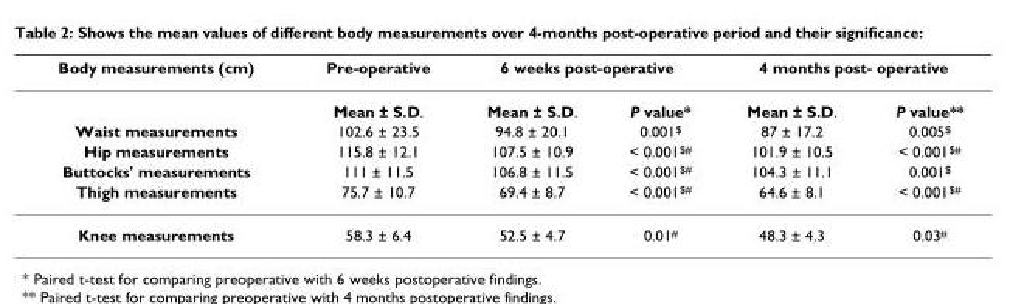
<table><thead><tr><td rowspan="2">Body measurements (cm)</td><td rowspan="2">Pre-operative Mean ± S.D.</td><td colspan="2">6 weeks post-operative</td><td colspan="2">4 months post- operative</td></tr><tr><td>Mean ± S.D.</td><td>P value*</td><td>Mean ± S.D.</td><td>P value**</td></tr></thead><tbody><tr><td>Waist measurements</td><td>102.6 ± 23.5</td><td>94.8 ± 20.1</td><td>0.001<sup>$</sup></td><td>87 ± 17.2</td><td>0.005<sup>$</sup></td></tr><tr><td>Hip measurements</td><td>115.8 ± 12.1</td><td>107.5 ± 10.9</td><td>&lt; 0.001<sup>$#</sup></td><td>101.9 ± 10.5</td><td>&lt; 0.001<sup>$#</sup></td></tr><tr><td>Buttocks&#x27; measurements</td><td>111 ± 11.5</td><td>106.8 ± 11.5</td><td>&lt; 0.001<sup>$#</sup></td><td>104.3 ± 11.1</td><td>0.001<sup>$</sup></td></tr><tr><td>Thigh measurements</td><td>75.7 ± 10.7</td><td>69.4 ± 8.7</td><td>&lt; 0.001<sup>$#</sup></td><td>64.6 ± 8.1</td><td>&lt; 0.001<sup>$#</sup></td></tr><tr><td>Knee measurements</td><td>58.3 ± 6.4</td><td>52.5 ± 4.7</td><td>0.01<sup>#</sup></td><td>48.3 ± 4.3</td><td>0.03<sup>#</sup></td></tr></tbody></table>